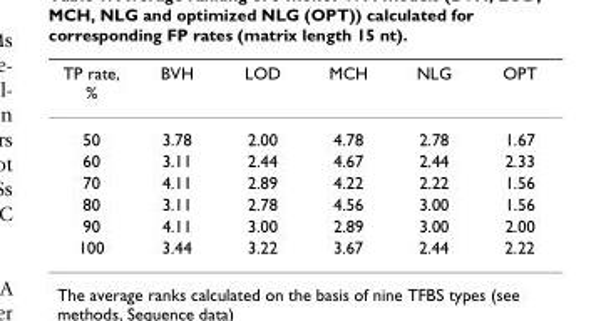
<table><thead><tr><td>TP rate, %</td><td>BVH</td><td>LOD</td><td>MCH</td><td>NLG</td><td>OPT</td></tr></thead><tbody><tr><td>50</td><td>3.78</td><td>2.00</td><td>4.78</td><td>2.78</td><td>1.67</td></tr><tr><td>60</td><td>3.11</td><td>2.44</td><td>4.67</td><td>2.44</td><td>2.33</td></tr><tr><td>70</td><td>4.11</td><td>2.89</td><td>4.22</td><td>2.22</td><td>1.56</td></tr><tr><td>80</td><td>3.11</td><td>2.78</td><td>4.56</td><td>3.00</td><td>1.56</td></tr><tr><td>90</td><td>4.11</td><td>3.00</td><td>2.89</td><td>3.00</td><td>2.00</td></tr><tr><td>100</td><td>3.44</td><td>3.22</td><td>3.67</td><td>2.44</td><td>2.22</td></tr></tbody></table>